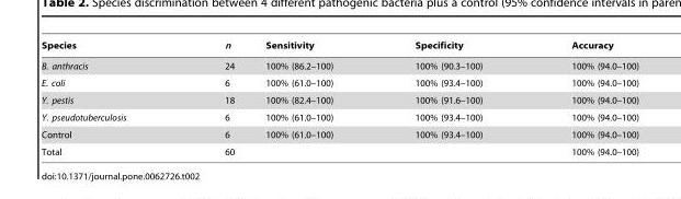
<table><thead><tr><td>Species</td><td>n</td><td>Sensitivity</td><td>Specificity</td><td>Accuracy</td></tr></thead><tbody><tr><td>B. anthracis</td><td>24</td><td>100% (86.2–100)</td><td>100% (90.3–100)</td><td>100% (94.0–100)</td></tr><tr><td>E. coli</td><td>6</td><td>100% (61.0–100)</td><td>100% (93.4–100)</td><td>100% (94.0–100)</td></tr><tr><td>Y. pestis</td><td>18</td><td>100% (82.4–100)</td><td>100% (91.6–100)</td><td>100% (94.0–100)</td></tr><tr><td>Y. pseudotuberculosis</td><td>6</td><td>100% (61.0–100)</td><td>100% (93.4–100)</td><td>100% (94.0–100)</td></tr><tr><td>Control</td><td>6</td><td>100% (61.0–100)</td><td>100% (93.4–100)</td><td>100% (94.0–100)</td></tr><tr><td>Total</td><td>60</td><td></td><td></td><td>100% (94.0–100)</td></tr></tbody></table>